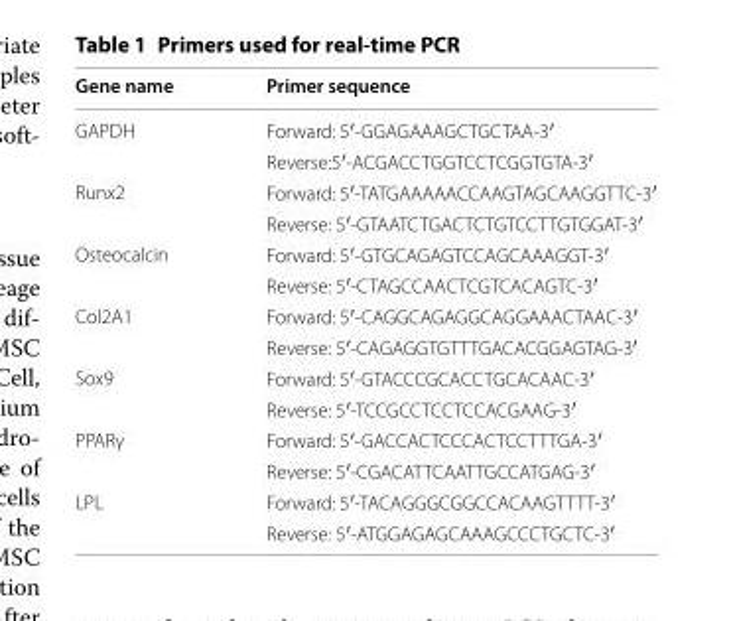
<table><thead><tr><td>Gene name</td><td>Primer sequence</td></tr></thead><tbody><tr><td rowspan="2">GAPDH</td><td>Forward: 5′-GGA GAA AGC TGC TAA-3′</td></tr><tr><td>Reverse:5′-ACG ACC TGG TCC TCG GTG TA-3′</td></tr><tr><td rowspan="2">Runx2</td><td>Forward: 5′-TAT GAA AAA CCA AGT AGC AAG GTT C-3′</td></tr><tr><td>Reverse: 5′-GTA ATC TGA CTC TGT CCT TGT GGA T-3′</td></tr><tr><td rowspan="2">Osteocalcin</td><td>Forward: 5′-GTG CAG AGT CCA GCA AAG GT-3′</td></tr><tr><td>Reverse: 5′-CTA GCC AAC TCG TCA CAG TC-3′</td></tr><tr><td rowspan="2">Col2A1</td><td>Forward: 5′-CAG GCA GAG GCA GGA AAC TAAC-3′</td></tr><tr><td>Reverse: 5′-CAG AGG TGT TTG ACA CGG AGTAG-3′</td></tr><tr><td rowspan="2">Sox9</td><td>Forward: 5′-GTA CCC GCA CCT GCA CAA C-3′</td></tr><tr><td>Reverse: 5′-TCC GCC TCC TCC ACG AAG -3′</td></tr><tr><td rowspan="2">PPARγ</td><td>Forward: 5′-GAC CAC TCC CAC TCC TTT GA-3′</td></tr><tr><td>Reverse: 5′-CGA CAT TCA ATT GCC ATG AG-3′</td></tr><tr><td rowspan="2">LPL</td><td>Forward: 5′-TAC AGG GCG GCC ACA AGT TTT-3′</td></tr><tr><td>Reverse: 5′-ATG GAG AGC AAA GCC CTG CTC-3′</td></tr></tbody></table>